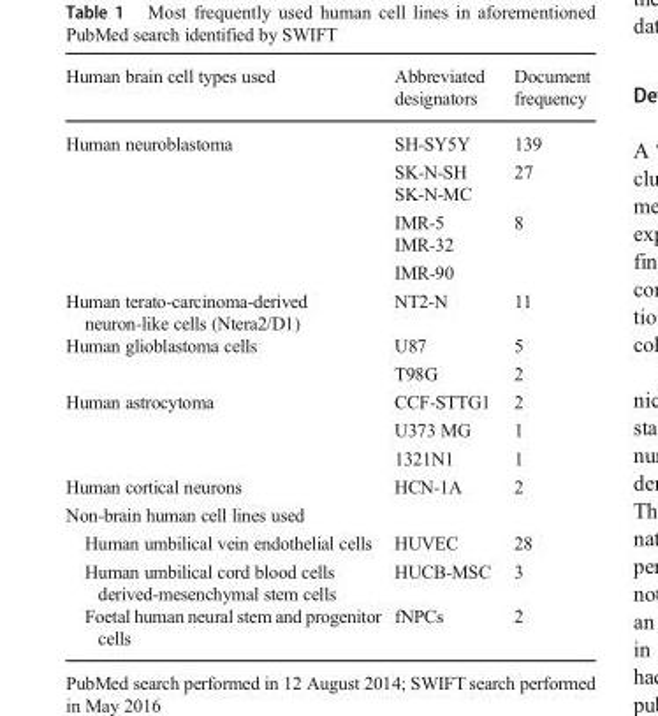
<table><thead><tr><td>Human brain cell types used</td><td>Abbreviated designators</td><td>Document frequency</td></tr></thead><tbody><tr><td rowspan="6">Human neuroblastoma</td><td>SH-SY5Y</td><td>139</td></tr><tr><td>SK-N-SH</td><td rowspan="2">27</td></tr><tr><td>SK-N-MC</td></tr><tr><td>IMR-5</td><td rowspan="3">8</td></tr><tr><td>IMR-32</td></tr><tr><td>IMR-90</td></tr><tr><td>Human terato-carcinoma-derived neuron-like cells (Ntera2/D1)</td><td>NT2-N</td><td>11</td></tr><tr><td rowspan="2">Human glioblastoma cells</td><td>U87</td><td>5</td></tr><tr><td>T98G</td><td>2</td></tr><tr><td rowspan="3">Human astrocytoma</td><td>CCF-STTG1</td><td>2</td></tr><tr><td>U373 MG</td><td>1</td></tr><tr><td>1321N1</td><td>1</td></tr><tr><td>Human cortical neurons</td><td>HCN-1A</td><td>2</td></tr><tr><td colspan="3">Non-brain human cell lines used</td></tr><tr><td>Human umbilical vein endothelial cells</td><td>HUVEC</td><td>28</td></tr><tr><td>Human umbilical cord blood cells derived-mesenchymal stem cells</td><td>HUCB-MSC</td><td>3</td></tr><tr><td>Foetal human neural stem and progenitor cells</td><td>fNPCs</td><td>2</td></tr></tbody></table>